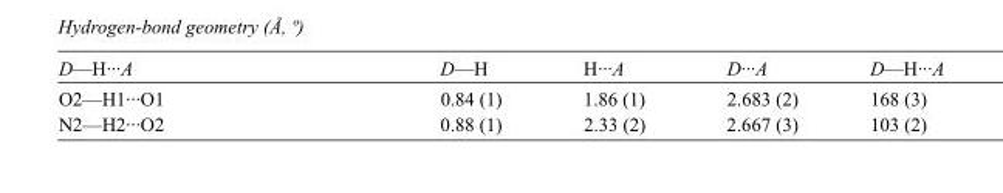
<table><tbody><tr><td>D—H···A</td><td>D—H</td><td>H···A</td><td>D···A</td><td>D—H···A</td></tr><tr><td>O2—H1···O1</td><td>0.84 (1)</td><td>1.86 (1)</td><td>2.683 (2)</td><td>168 (3)</td></tr><tr><td>N2—H2···O2</td><td>0.88 (1)</td><td>2.33 (2)</td><td>2.667 (3)</td><td>103 (2)</td></tr></tbody></table>